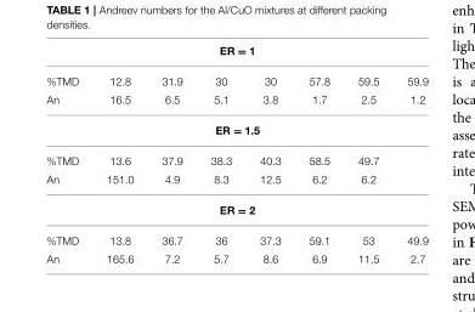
<table><thead><tr><td colspan="8">ER = 1</td></tr><tr><td>%TMD</td><td>12.8</td><td>31.9</td><td>30</td><td>30</td><td>57.8</td><td>59.5</td><td>59.9</td></tr></thead><tbody><tr><td>An</td><td>16.5</td><td>6.5</td><td>5.1</td><td>3.8</td><td>1.7</td><td>2.5</td><td>1.2</td></tr><tr><td colspan="8">ER = 1.5</td></tr><tr><td>%TMD</td><td>13.6</td><td>37.9</td><td>38.3</td><td>40.3</td><td>58.5</td><td>49.7</td><td></td></tr><tr><td>An</td><td>151.0</td><td>4.9</td><td>8.3</td><td>12.5</td><td>6.2</td><td>6.2</td><td></td></tr><tr><td colspan="8">ER = 2</td></tr><tr><td>%TMD</td><td>13.8</td><td>36.7</td><td>36</td><td>37.3</td><td>59.1</td><td>53</td><td>49.9</td></tr><tr><td>An</td><td>165.6</td><td>7.2</td><td>5.7</td><td>8.6</td><td>6.9</td><td>11.5</td><td>2.7</td></tr></tbody></table>